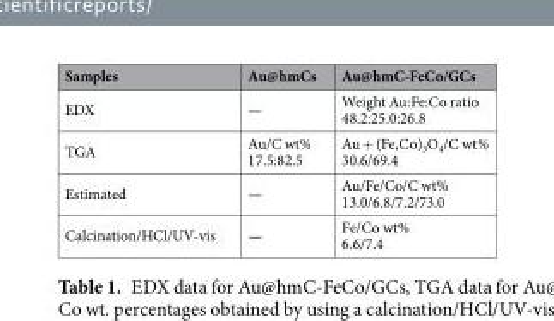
<table><thead><tr><td>Samples</td><td>Au@hmCs</td><td>Au@hmC-FeCo/GCs</td></tr></thead><tbody><tr><td>EDX</td><td>—</td><td>Weight Au:Fe:Co ratio 48.2:25.0:26.8</td></tr><tr><td>TGA</td><td>Au/C wt% 17.5:82.5</td><td>Au + (Fe,Co)<sub>3</sub>O<sub>4</sub>/C wt% 30.6/69.4</td></tr><tr><td>Estimated</td><td>—</td><td>Au/Fe/Co/C wt% 13.0/6.8/7.2/73.0</td></tr><tr><td>Calcination/HCl/UV-vis</td><td>—</td><td>Fe/Co wt% 6.6/7.4</td></tr></tbody></table>